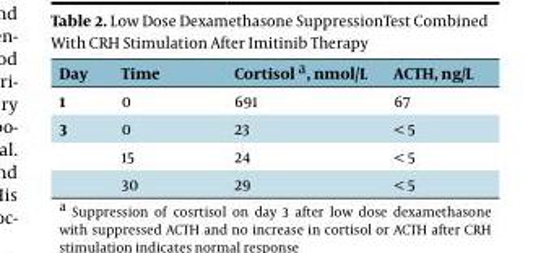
<table><thead><tr><td>Day</td><td>Time</td><td>Cortisol a, nmol/L</td><td>ACTH, ng/L</td></tr></thead><tbody><tr><td>1</td><td>0</td><td>691</td><td>67</td></tr><tr><td rowspan="3">3</td><td>0</td><td>23</td><td>&lt; 5</td></tr><tr><td>15</td><td>24</td><td>&lt; 5</td></tr><tr><td>30</td><td>29</td><td>&lt; 5</td></tr></tbody></table>